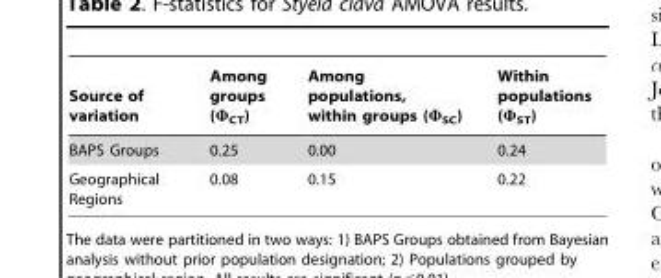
<table><thead><tr><td>Source of variation</td><td>Among groups (Φ<sub>CT</sub>)</td><td>Among populations, within groups (Φ<sub>SC</sub>)</td><td>Within populations (Φ<sub>ST</sub>)</td></tr></thead><tbody><tr><td>BAPS Groups</td><td>0.25</td><td>0.00</td><td>0.24</td></tr><tr><td>Geographical Regions</td><td>0.08</td><td>0.15</td><td>0.22</td></tr></tbody></table>